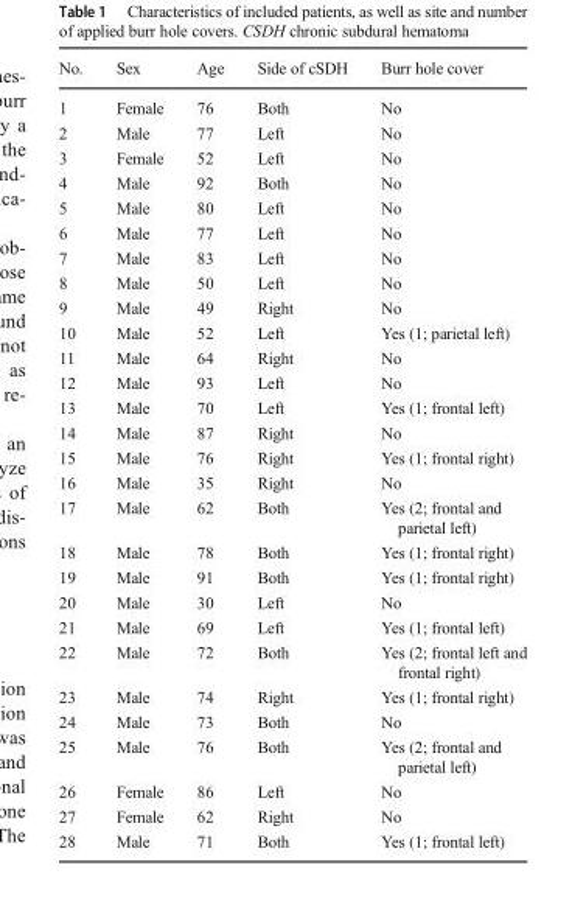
<table><thead><tr><td>No.</td><td>Sex</td><td>Age</td><td>Side of cSDH</td><td>Burr hole cover</td></tr></thead><tbody><tr><td>1</td><td>Female</td><td>76</td><td>Both</td><td>No</td></tr><tr><td>2</td><td>Male</td><td>77</td><td>Left</td><td>No</td></tr><tr><td>3</td><td>Female</td><td>52</td><td>Left</td><td>No</td></tr><tr><td>4</td><td>Male</td><td>92</td><td>Both</td><td>No</td></tr><tr><td>5</td><td>Male</td><td>80</td><td>Left</td><td>No</td></tr><tr><td>6</td><td>Male</td><td>77</td><td>Left</td><td>No</td></tr><tr><td>7</td><td>Male</td><td>83</td><td>Left</td><td>No</td></tr><tr><td>8</td><td>Male</td><td>50</td><td>Left</td><td>No</td></tr><tr><td>9</td><td>Male</td><td>49</td><td>Right</td><td>No</td></tr><tr><td>10</td><td>Male</td><td>52</td><td>Left</td><td>Yes (1; parietal left)</td></tr><tr><td>11</td><td>Male</td><td>64</td><td>Right</td><td>No</td></tr><tr><td>12</td><td>Male</td><td>93</td><td>Left</td><td>No</td></tr><tr><td>13</td><td>Male</td><td>70</td><td>Left</td><td>Yes (1; frontal left)</td></tr><tr><td>14</td><td>Male</td><td>87</td><td>Right</td><td>No</td></tr><tr><td>15</td><td>Male</td><td>76</td><td>Right</td><td>Yes (1; frontal right)</td></tr><tr><td>16</td><td>Male</td><td>35</td><td>Right</td><td>No</td></tr><tr><td>17</td><td>Male</td><td>62</td><td>Both</td><td>Yes (2; frontal and parietal left)</td></tr><tr><td>18</td><td>Male</td><td>78</td><td>Both</td><td>Yes (1; frontal right)</td></tr><tr><td>19</td><td>Male</td><td>91</td><td>Both</td><td>Yes (1; frontal right)</td></tr><tr><td>20</td><td>Male</td><td>30</td><td>Left</td><td>No</td></tr><tr><td>21</td><td>Male</td><td>69</td><td>Left</td><td>Yes (1; frontal left)</td></tr><tr><td>22</td><td>Male</td><td>72</td><td>Both</td><td>Yes (2; frontal left and frontal right)</td></tr><tr><td>23</td><td>Male</td><td>74</td><td>Right</td><td>Yes (1; frontal right)</td></tr><tr><td>24</td><td>Male</td><td>73</td><td>Both</td><td>No</td></tr><tr><td>25</td><td>Male</td><td>76</td><td>Both</td><td>Yes (2; frontal and parietal left)</td></tr><tr><td>26</td><td>Female</td><td>86</td><td>Left</td><td>No</td></tr><tr><td>27</td><td>Female</td><td>62</td><td>Right</td><td>No</td></tr><tr><td>28</td><td>Male</td><td>71</td><td>Both</td><td>Yes (1; frontal left)</td></tr></tbody></table>